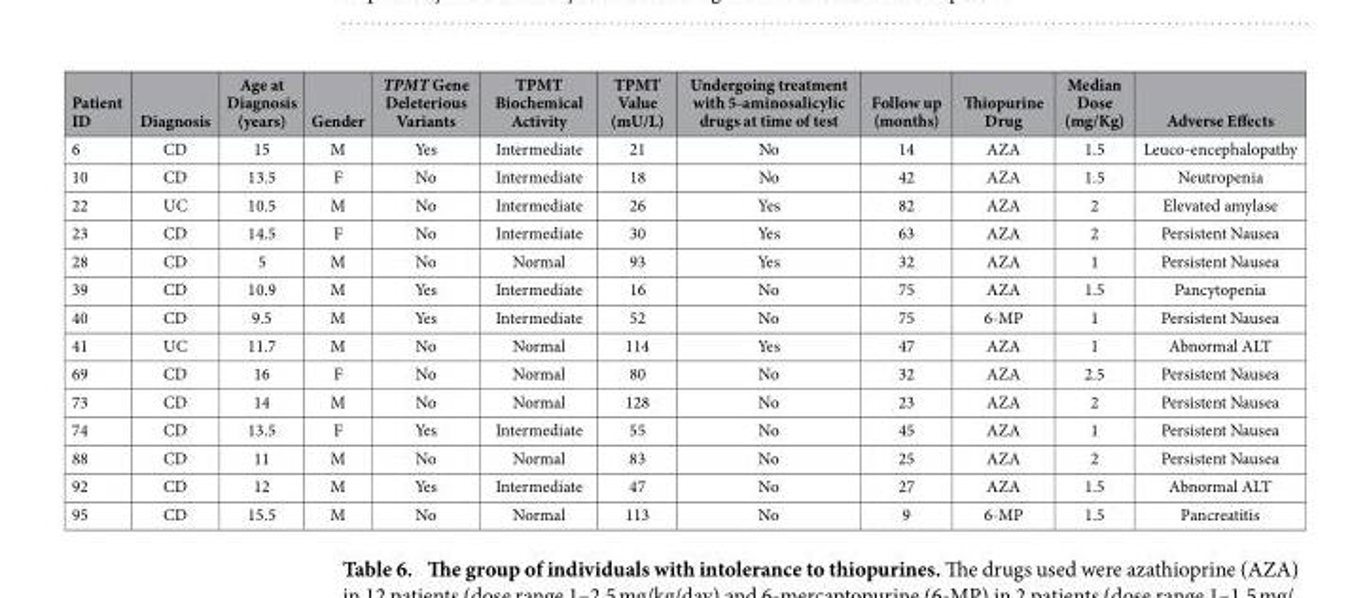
<table><thead><tr><td>Patient ID</td><td>Diagnosis</td><td>Age at Diagnosis (years)</td><td>Gender</td><td>TPMT Gene Deleterious Variants</td><td>TPMT Biochemical Activity</td><td>TPMT Value (mU/L)</td><td>Undergoing treatment with 5-aminosalicylic drugs at time of test</td><td>Follow up (months)</td><td>Thiopurine Drug</td><td>Median Dose (mg/Kg)</td><td>Adverse Effects</td></tr></thead><tbody><tr><td>6</td><td>CD</td><td>15</td><td>M</td><td>Yes</td><td>Intermediate</td><td>21</td><td>No</td><td>14</td><td>AZA</td><td>1.5</td><td>Leuco-encephalopathy</td></tr><tr><td>10</td><td>CD</td><td>13.5</td><td>F</td><td>No</td><td>Intermediate</td><td>18</td><td>No</td><td>42</td><td>AZA</td><td>1.5</td><td>Neutropenia</td></tr><tr><td>22</td><td>UC</td><td>10.5</td><td>M</td><td>No</td><td>Intermediate</td><td>26</td><td>Yes</td><td>82</td><td>AZA</td><td>2</td><td>Elevated amylase</td></tr><tr><td>23</td><td>CD</td><td>14.5</td><td>F</td><td>No</td><td>Intermediate</td><td>30</td><td>Yes</td><td>63</td><td>AZA</td><td>2</td><td>Persistent Nausea</td></tr><tr><td>28</td><td>CD</td><td>5</td><td>M</td><td>No</td><td>Normal</td><td>93</td><td>Yes</td><td>32</td><td>AZA</td><td>1</td><td>Persistent Nausea</td></tr><tr><td>39</td><td>CD</td><td>10.9</td><td>M</td><td>Yes</td><td>Intermediate</td><td>16</td><td>No</td><td>75</td><td>AZA</td><td>1.5</td><td>Pancytopenia</td></tr><tr><td>40</td><td>CD</td><td>9.5</td><td>M</td><td>Yes</td><td>Intermediate</td><td>52</td><td>No</td><td>75</td><td>6-MP</td><td>1</td><td>Persistent Nausea</td></tr><tr><td>41</td><td>UC</td><td>11.7</td><td>M</td><td>No</td><td>Normal</td><td>114</td><td>Yes</td><td>47</td><td>AZA</td><td>1</td><td>Abnormal ALT</td></tr><tr><td>69</td><td>CD</td><td>16</td><td>F</td><td>No</td><td>Normal</td><td>80</td><td>No</td><td>32</td><td>AZA</td><td>2.5</td><td>Persistent Nausea</td></tr><tr><td>73</td><td>CD</td><td>14</td><td>M</td><td>No</td><td>Normal</td><td>128</td><td>No</td><td>23</td><td>AZA</td><td>2</td><td>Persistent Nausea</td></tr><tr><td>74</td><td>CD</td><td>13.5</td><td>F</td><td>Yes</td><td>Intermediate</td><td>55</td><td>No</td><td>45</td><td>AZA</td><td>1</td><td>Persistent Nausea</td></tr><tr><td>88</td><td>CD</td><td>11</td><td>M</td><td>No</td><td>Normal</td><td>83</td><td>No</td><td>25</td><td>AZA</td><td>2</td><td>Persistent Nausea</td></tr><tr><td>92</td><td>CD</td><td>12</td><td>M</td><td>Yes</td><td>Intermediate</td><td>47</td><td>No</td><td>27</td><td>AZA</td><td>1.5</td><td>Abnormal ALT</td></tr><tr><td>95</td><td>CD</td><td>15.5</td><td>M</td><td>No</td><td>Normal</td><td>113</td><td>No</td><td>9</td><td>6-MP</td><td>1.5</td><td>Pancreatitis</td></tr></tbody></table>